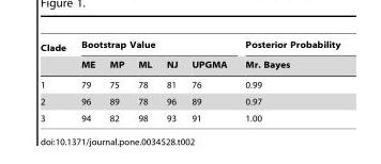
<table><thead><tr><td rowspan="2">Clade</td><td colspan="5">Bootstrap Value</td><td rowspan="2">Posterior Probability Mr. Bayes</td></tr><tr><td>ME</td><td>MP</td><td>ML</td><td>NJ</td><td>UPGMA</td></tr></thead><tbody><tr><td>1</td><td>79</td><td>75</td><td>78</td><td>81</td><td>76</td><td>0.99</td></tr><tr><td>2</td><td>96</td><td>89</td><td>78</td><td>96</td><td>89</td><td>0.97</td></tr><tr><td>3</td><td>94</td><td>82</td><td>98</td><td>93</td><td>91</td><td>1.00</td></tr></tbody></table>